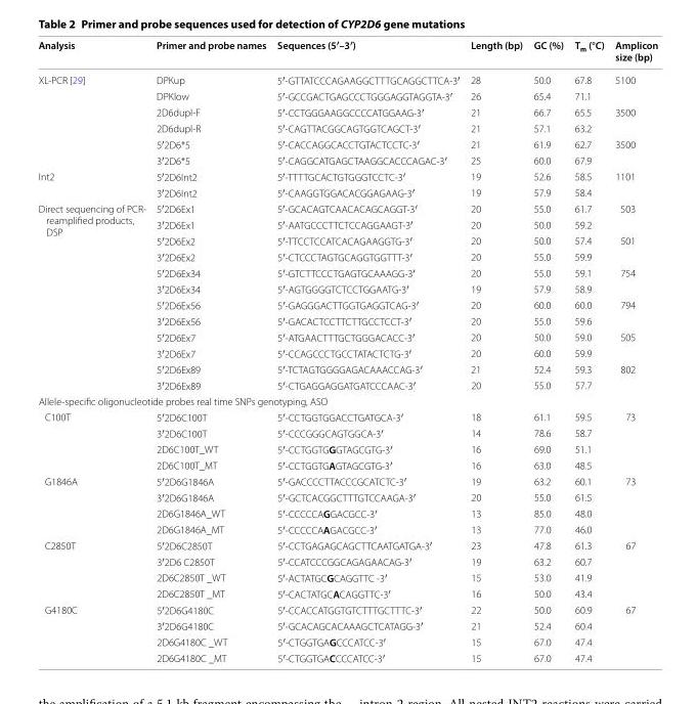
<table><thead><tr><td>Analysis</td><td>Primer and probe names</td><td>Sequences (5′–3′)</td><td>Length (bp)</td><td>GC (%)</td><td>T<sub>m</sub> (°C)</td><td>Amplicon size (bp)</td></tr></thead><tbody><tr><td rowspan="6">XL-PCR [29]</td><td>DPKup</td><td>5′-GTT ATC CCA GAA GGC TTT GCA GGC TTCA-3′</td><td>28</td><td>50.0</td><td>67.8</td><td rowspan="2">5100</td></tr><tr><td>DPKlow</td><td>5′-GCC GAC TGA GCC CTG GGA GGT AGG TA-3′</td><td>26</td><td>65.4</td><td>71.1</td></tr><tr><td>2D6dupl-F</td><td>5′-CCT GGG AAG GCC CCA TGG AAG-3′</td><td>21</td><td>66.7</td><td>65.5</td><td rowspan="2">3500</td></tr><tr><td>2D6dupl-R</td><td>5′-CAG TTA CGG CAG TGG TCA GCT-3′</td><td>21</td><td>57.1</td><td>63.2</td></tr><tr><td>5′2D6*5</td><td>5′-CAC CAG GCA CCT GTA CTC CTC-3′</td><td>21</td><td>61.9</td><td>62.7</td><td rowspan="2">3500</td></tr><tr><td>3′2D6*5</td><td>5′-CAG GCA TGA GCT AAG GCA CCC AGA C-3′</td><td>25</td><td>60.0</td><td>67.9</td></tr><tr><td rowspan="2">Int2</td><td>5′2D6Int2</td><td>5′-TTT TGC ACT GTG GGT CCT C-3′</td><td>19</td><td>52.6</td><td>58.5</td><td rowspan="2">1101</td></tr><tr><td>3′2D6Int2</td><td>5′-CAA GGT GGA CAC GGA GAA G-3′</td><td>19</td><td>57.9</td><td>58.4</td></tr><tr><td rowspan="12">Direct sequencing of PCR- reamplified products, DSP</td><td>5′2D6Ex1</td><td>5′-GCA CAG TCA ACA CAG CAG GT-3′</td><td>20</td><td>55.0</td><td>61.7</td><td rowspan="2">503</td></tr><tr><td>3′2D6Ex1</td><td>5′-AAT GCC CTT CTC CAG GAA GT-3′</td><td>20</td><td>50.0</td><td>59.2</td></tr><tr><td>5′2D6Ex2</td><td>5′-TTC CTC CAT CAC AGA AGG TG-3′</td><td>20</td><td>50.0</td><td>57.4</td><td rowspan="2">501</td></tr><tr><td>3′2D6Ex2</td><td>5′-CTC CCT AGT GCA GGT GGT TT-3′</td><td>20</td><td>55.0</td><td>59.9</td></tr><tr><td>5′2D6Ex34</td><td>5′-GTC TTC CCT GAG TGC AAA GG-3′</td><td>20</td><td>55.0</td><td>59.1</td><td rowspan="2">754</td></tr><tr><td>3′2D6Ex34</td><td>5′-AGT GGG GTC TCC TGG AAT G-3′</td><td>19</td><td>57.9</td><td>58.9</td></tr><tr><td>5′2D6Ex56</td><td>5′-GAG GGA CTT GGT GAG GTC AG-3′</td><td>20</td><td>60.0</td><td>60.0</td><td rowspan="2">794</td></tr><tr><td>3′2D6Ex56</td><td>5′-GAC ACT CCT TCT TGC CTC CT-3′</td><td>20</td><td>55.0</td><td>59.6</td></tr><tr><td>5′2D6Ex7</td><td>5′-ATG AAC TTT GCT GGG ACA CC-3′</td><td>20</td><td>50.0</td><td>59.0</td><td rowspan="2">505</td></tr><tr><td>3′2D6Ex7</td><td>5′-CCA GCC CTG CCT ATA CTC TG-3′</td><td>20</td><td>60.0</td><td>59.9</td></tr><tr><td>5′2D6Ex89</td><td>5′-TCT AGT GGG GAG ACA AAC CAG-3′</td><td>21</td><td>52.4</td><td>59.3</td><td rowspan="2">802</td></tr><tr><td>3′2D6Ex89</td><td>5′-CTG AGG AGG ATG ATC CCA AC-3′</td><td>20</td><td>55.0</td><td>57.7</td></tr><tr><td colspan="7">Allele-specific oligonucleotide probes real time SNPs genotyping, ASO</td></tr><tr><td rowspan="4">C100T</td><td>5′2D6C100T</td><td>5′-CCT GGT GGA CCT GAT GCA -3′</td><td>18</td><td>61.1</td><td>59.5</td><td rowspan="4">73</td></tr><tr><td>3′2D6C100T</td><td>5′-CCC GGG CAG TGG CA-3′</td><td>14</td><td>78.6</td><td>58.7</td></tr><tr><td>2D6C100T_WT</td><td>5′-CCT GGT GGGTA GCG TG-3′</td><td>16</td><td>69.0</td><td>51.1</td></tr><tr><td>2D6C100T_MT</td><td>5′-CCT GGT GAGTA GCG TG-3′</td><td>16</td><td>63.0</td><td>48.5</td></tr><tr><td rowspan="4">G1846A</td><td>5′2D6G1846A</td><td>5′-GAC CCC TTA CCC GCA TCT C-3′</td><td>19</td><td>63.2</td><td>60.1</td><td rowspan="4">73</td></tr><tr><td>3′2D6G1846A</td><td>5′-GCT CAC GGC TTT GTC CAA GA-3′</td><td>20</td><td>55.0</td><td>61.5</td></tr><tr><td>2D6G1846A_WT</td><td>5′-CCC CCA GGAC GCC -3′</td><td>13</td><td>85.0</td><td>48.0</td></tr><tr><td>2D6G1846A_MT</td><td>5′-CCC CCA AGAC GCC -3′</td><td>13</td><td>77.0</td><td>46.0</td></tr><tr><td rowspan="4">C2850T</td><td>5′2D6C2850T</td><td>5′-CCT GAG AGC AGC TTC AAT GATGA-3′</td><td>23</td><td>47.8</td><td>61.3</td><td rowspan="4">67</td></tr><tr><td>3′2D6 C2850T</td><td>5′-CCA TCC CGG CAG AGA ACA G-3′</td><td>19</td><td>63.2</td><td>60.7</td></tr><tr><td>2D6C2850T _WT</td><td>5′-ACT ATG CGCAG GTT C -3′</td><td>15</td><td>53.0</td><td>41.9</td></tr><tr><td>2D6C2850T _MT</td><td>5′-CAC TAT GCACAG GTT C-3′</td><td>16</td><td>50.0</td><td>43.4</td></tr><tr><td rowspan="4">G4180C</td><td>5′2D6G4180C</td><td>5′-CCA CCA TGG TGT CTT TGC TTTC-3′</td><td>22</td><td>50.0</td><td>60.9</td><td rowspan="4">67</td></tr><tr><td>3′2D6G4180C</td><td>5′-GCA CAG CAC AAA GCT CAT AGG-3′</td><td>21</td><td>52.4</td><td>60.4</td></tr><tr><td>2D6G4180C _WT</td><td>5′-CTG GTG AGCCC ATC C-3′</td><td>15</td><td>67.0</td><td>47.4</td></tr><tr><td>2D6G4180C _MT</td><td>5′-CTG GTG ACCCC ATC C-3′</td><td>15</td><td>67.0</td><td>47.4</td></tr></tbody></table>